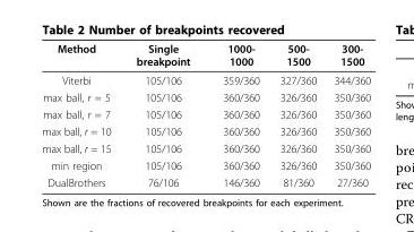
<table><thead><tr><td>Method</td><td>Single breakpoint</td><td>1000- 1000</td><td>500- 1500</td><td>300- 1500</td></tr></thead><tbody><tr><td>Viterbi</td><td>105/106</td><td>359/360</td><td>327/360</td><td>344/360</td></tr><tr><td>max ball, r = 5</td><td>105/106</td><td>360/360</td><td>326/360</td><td>350/360</td></tr><tr><td>max ball, r = 7</td><td>105/106</td><td>360/360</td><td>326/360</td><td>350/360</td></tr><tr><td>max ball, r = 10</td><td>105/106</td><td>360/360</td><td>326/360</td><td>350/360</td></tr><tr><td>max ball, r = 15</td><td>105/106</td><td>360/360</td><td>326/360</td><td>350/360</td></tr><tr><td>min region</td><td>105/106</td><td>360/360</td><td>326/360</td><td>350/360</td></tr><tr><td>DualBrothers</td><td>76/106</td><td>146/360</td><td>81/360</td><td>27/360</td></tr></tbody></table>